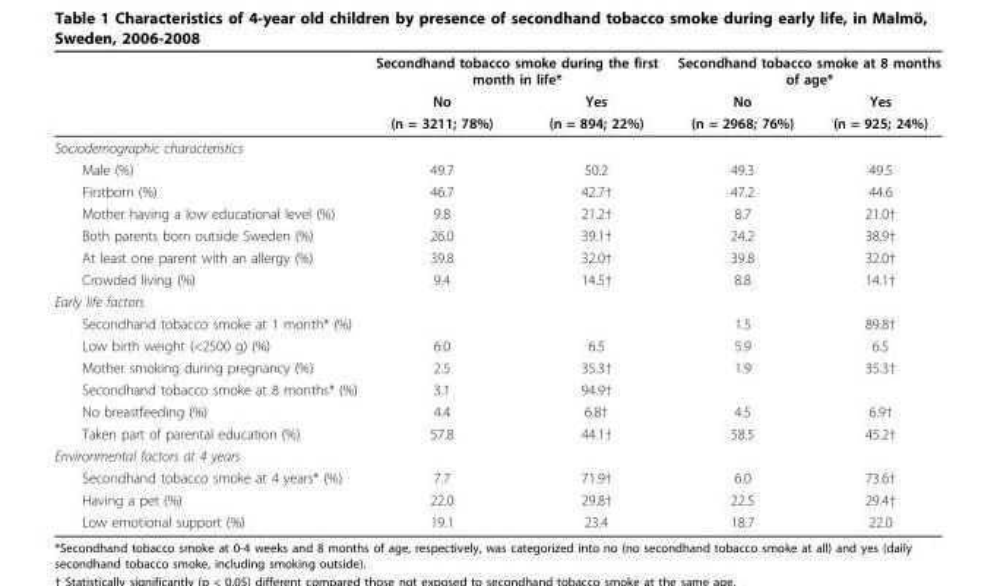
<table><thead><tr><td rowspan="3"></td><td colspan="2">Secondhand tobacco smoke during the first month in life*</td><td colspan="2">Secondhand tobacco smoke at 8 months of age*</td></tr><tr><td rowspan="2">No (n = 3211; 78%)</td><td rowspan="2">Yes (n = 894; 22%)</td><td rowspan="2">No (n = 2968; 76%)</td><td rowspan="2">Yes (n = 925; 24%)</td></tr><tr></tr></thead><tbody><tr><td colspan="5">Sociodemographic characteristics</td></tr><tr><td>Male (%)</td><td>49.7</td><td>50.2</td><td>49.3</td><td>49.5</td></tr><tr><td>Firstborn (%)</td><td>46.7</td><td>42.7†</td><td>47.2</td><td>44.6</td></tr><tr><td>Mother having a low educational level (%)</td><td>9.8</td><td>21.2†</td><td>8.7</td><td>21.0†</td></tr><tr><td>Both parents born outside Sweden (%)</td><td>26.0</td><td>39.1†</td><td>24.2</td><td>38.9†</td></tr><tr><td>At least one parent with an allergy (%)</td><td>39.8</td><td>32.0†</td><td>39.8</td><td>32.0†</td></tr><tr><td>Crowded living (%)</td><td>9.4</td><td>14.5†</td><td>8.8</td><td>14.1†</td></tr><tr><td colspan="5">Early life factors</td></tr><tr><td>Secondhand tobacco smoke at 1 month* (%)</td><td></td><td></td><td>1.5</td><td>89.8†</td></tr><tr><td>Low birth weight (&lt;2500 g) (%)</td><td>6.0</td><td>6.5</td><td>5.9</td><td>6.5</td></tr><tr><td>Mother smoking during pregnancy (%)</td><td>2.5</td><td>35.3†</td><td>1.9</td><td>35.3†</td></tr><tr><td>Secondhand tobacco smoke at 8 months* (%)</td><td>3.1</td><td>94.9†</td><td></td><td></td></tr><tr><td>No breastfeeding (%)</td><td>4.4</td><td>6.8†</td><td>4.5</td><td>6.9†</td></tr><tr><td>Taken part of parental education (%)</td><td>57.8</td><td>44.1†</td><td>58.5</td><td>45.2†</td></tr><tr><td colspan="5">Environmental factors at 4 years</td></tr><tr><td>Secondhand tobacco smoke at 4 years* (%)</td><td>7.7</td><td>71.9†</td><td>6.0</td><td>73.6†</td></tr><tr><td>Having a pet (%)</td><td>22.0</td><td>29.8†</td><td>22.5</td><td>29.4†</td></tr><tr><td>Low emotional support (%)</td><td>19.1</td><td>23.4</td><td>18.7</td><td>22.0</td></tr></tbody></table>